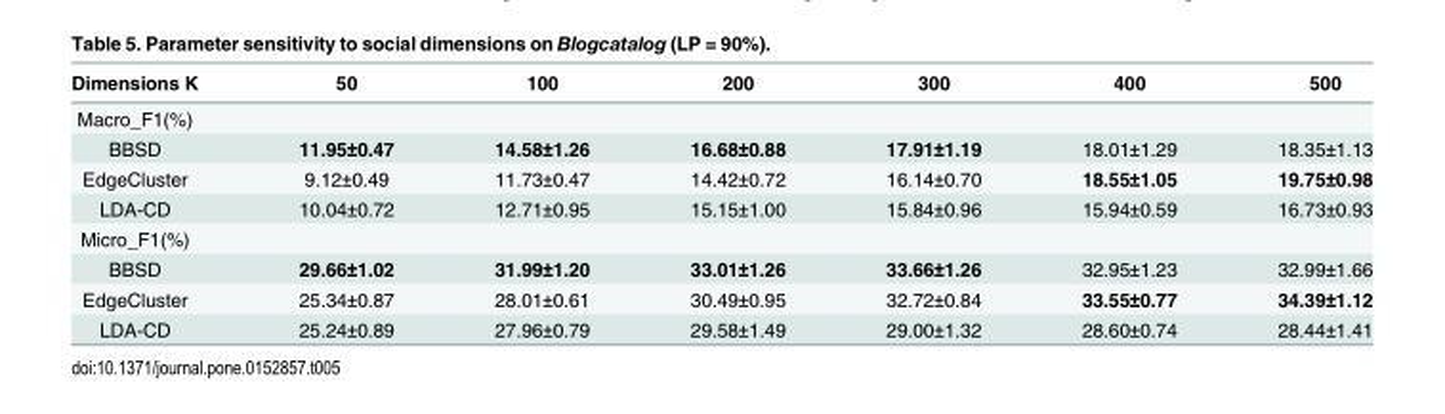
<table><thead><tr><td>Dimensions K</td><td>50</td><td>100</td><td>200</td><td>300</td><td>400</td><td>500</td></tr></thead><tbody><tr><td colspan="7">Macro_F1(%)</td></tr><tr><td>BBSD</td><td>11.95±0.47</td><td>14.58±1.26</td><td>16.68±0.88</td><td>17.91±1.19</td><td>18.01±1.29</td><td>18.35±1.13</td></tr><tr><td>EdgeCluster</td><td>9.12±0.49</td><td>11.73±0.47</td><td>14.42±0.72</td><td>16.14±0.70</td><td>18.55±1.05</td><td>19.75±0.98</td></tr><tr><td>LDA-CD</td><td>10.04±0.72</td><td>12.71±0.95</td><td>15.15±1.00</td><td>15.84±0.96</td><td>15.94±0.59</td><td>16.73±0.93</td></tr><tr><td colspan="7">Micro_F1(%)</td></tr><tr><td>BBSD</td><td>29.66±1.02</td><td>31.99±1.20</td><td>33.01±1.26</td><td>33.66±1.26</td><td>32.95±1.23</td><td>32.99±1.66</td></tr><tr><td>EdgeCluster</td><td>25.34±0.87</td><td>28.01±0.61</td><td>30.49±0.95</td><td>32.72±0.84</td><td>33.55±0.77</td><td>34.39±1.12</td></tr><tr><td>LDA-CD</td><td>25.24±0.89</td><td>27.96±0.79</td><td>29.58±1.49</td><td>29.00±1.32</td><td>28.60±0.74</td><td>28.44±1.41</td></tr></tbody></table>